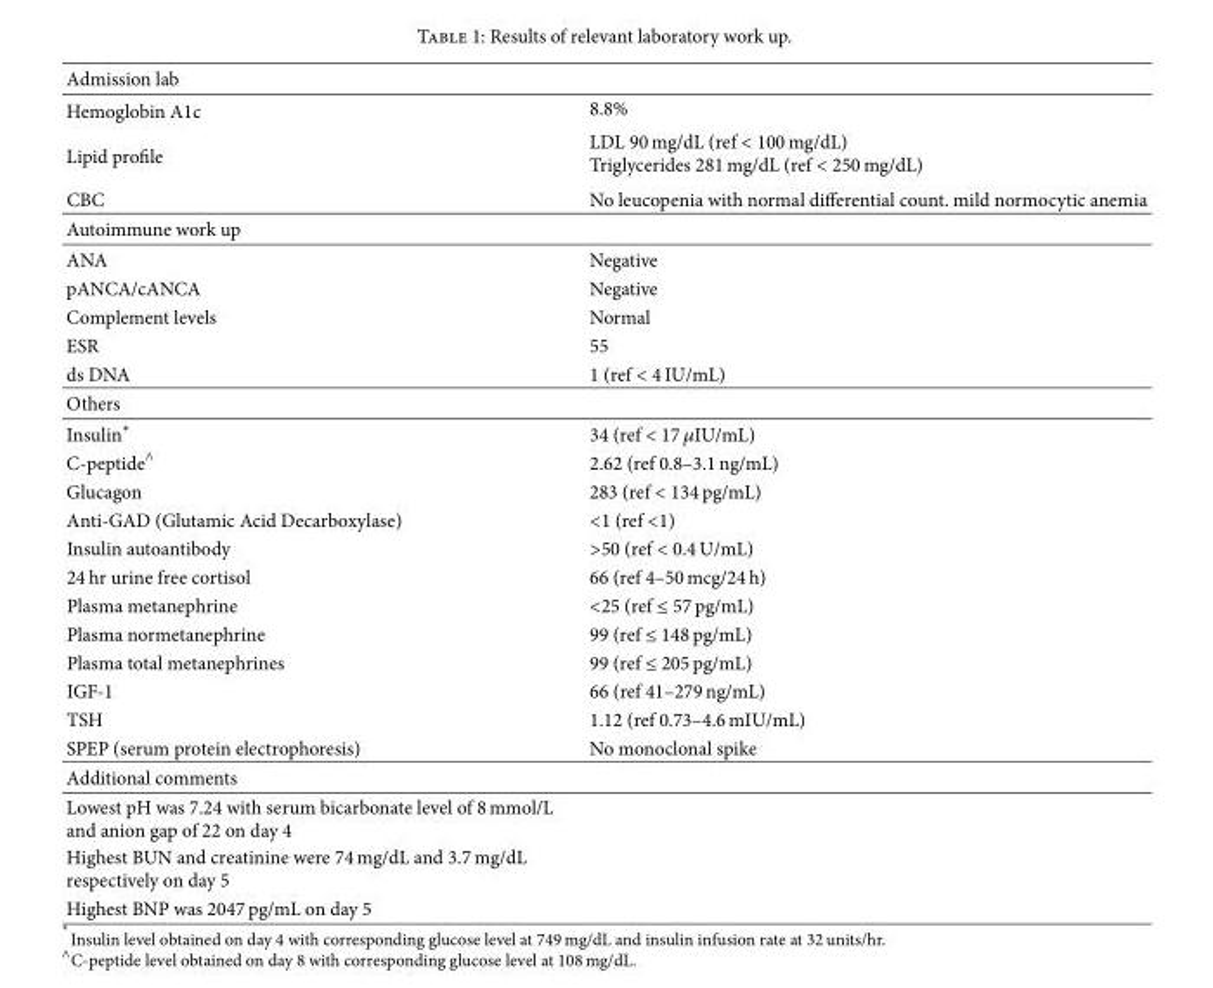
<table><thead><tr><td>Admission lab</td><td></td></tr></thead><tbody><tr><td>Hemoglobin A1c</td><td>8.8%</td></tr><tr><td>Lipid pro�le</td><td>LDL 90 mg/dL (ref &lt; 100 mg/dL) Triglycerides 281 mg/dL (ref &lt; 250 mg/dL)</td></tr><tr><td>CBC</td><td>No leucopenia with normal differential count. mild normocytic anemia</td></tr><tr><td colspan="2">Autoimmune work up</td></tr><tr><td>ANA</td><td>Negative</td></tr><tr><td>pANCA/cANCA</td><td>Negative</td></tr><tr><td>Complement levels</td><td>Normal</td></tr><tr><td>ESR</td><td>55</td></tr><tr><td>ds DNA</td><td>1 (ref &lt; 4 IU/mL)</td></tr><tr><td colspan="2">Others</td></tr><tr><td>Insulin∗</td><td>34 (ref &lt; 17 𝜇𝜇IU/mL)</td></tr><tr><td>C-peptide<sup>∧</sup></td><td>2.62 (ref 0.8–3.1 ng/mL)</td></tr><tr><td>Glucagon</td><td>283 (ref &lt; 134 pg/mL)</td></tr><tr><td>Anti-GAD (Glutamic Acid Decarboxylase)</td><td>&lt;1 (ref &lt;1)</td></tr><tr><td>Insulin autoantibody</td><td>&gt;50 (ref &lt; 0.4 U/mL)</td></tr><tr><td>24 hr urine free cortisol</td><td>66 (ref 4–50 mcg/24 h)</td></tr><tr><td>Plasma metanephrine</td><td>&lt;25 (ref ≤ 57 pg/mL)</td></tr><tr><td>Plasma normetanephrine</td><td>99 (ref ≤ 148 pg/mL)</td></tr><tr><td>Plasma total metanephrines</td><td>99 (ref ≤ 205 pg/mL)</td></tr><tr><td>IGF-1</td><td>66 (ref 41–279 ng/mL)</td></tr><tr><td>TSH</td><td>1.12 (ref 0.73–4.6 mIU/mL)</td></tr><tr><td>SPEP (serum protein electrophoresis)</td><td>No monoclonal spike</td></tr><tr><td colspan="2">Additional comments</td></tr><tr><td colspan="2">Lowest pH was 7.24 with serum bicarbonate level of 8 mmol/L and anion gap of 22 on day 4</td></tr><tr><td colspan="2">Highest BUN and creatinine were 74 mg/dL and 3.7 mg/dL respectively on day 5</td></tr><tr><td>Highest BNP was 2047 pg/mL on day 5</td><td></td></tr></tbody></table>